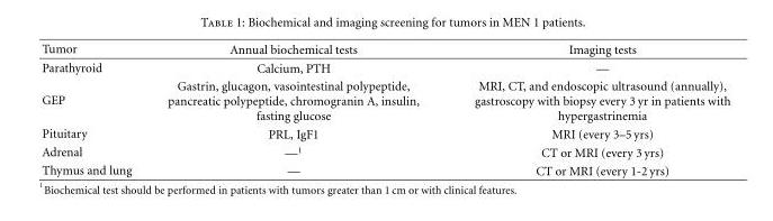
<table><thead><tr><td>Tumor</td><td>Annual biochemical tests</td><td>Imaging tests</td></tr></thead><tbody><tr><td>Parathyroid</td><td>Calcium, PTH</td><td>—</td></tr><tr><td>GEP</td><td>Gastrin, glucagon, vasointestinal polypeptide, pancreatic polypeptide, chromogranin A, insulin, fasting glucose</td><td>MRI, CT, and endoscopic ultrasound (annually), gastroscopy with biopsy every 3 yr in patients with hypergastrinemia</td></tr><tr><td>Pituitary</td><td>PRL, IgF1</td><td>MRI (every 3–5 yrs)</td></tr><tr><td>Adrenal</td><td>—<sup>1</sup></td><td>CT or MRI (every 3 yrs)</td></tr><tr><td>Thymus and lung</td><td>—</td><td>CT or MRI (every 1-2 yrs)</td></tr></tbody></table>